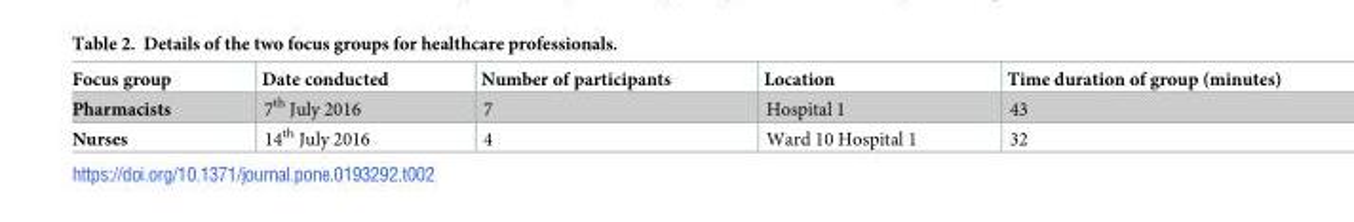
<table><thead><tr><td>Focus group</td><td>Date conducted</td><td>Number of participants</td><td>Location</td><td>Time duration of group (minutes)</td></tr></thead><tbody><tr><td>Pharmacists</td><td>7<sup>th</sup> July 2016</td><td>7</td><td>Hospital 1</td><td>43</td></tr><tr><td>Nurses</td><td>14<sup>th</sup> July 2016</td><td>4</td><td>Ward 10 Hospital 1</td><td>32</td></tr></tbody></table>